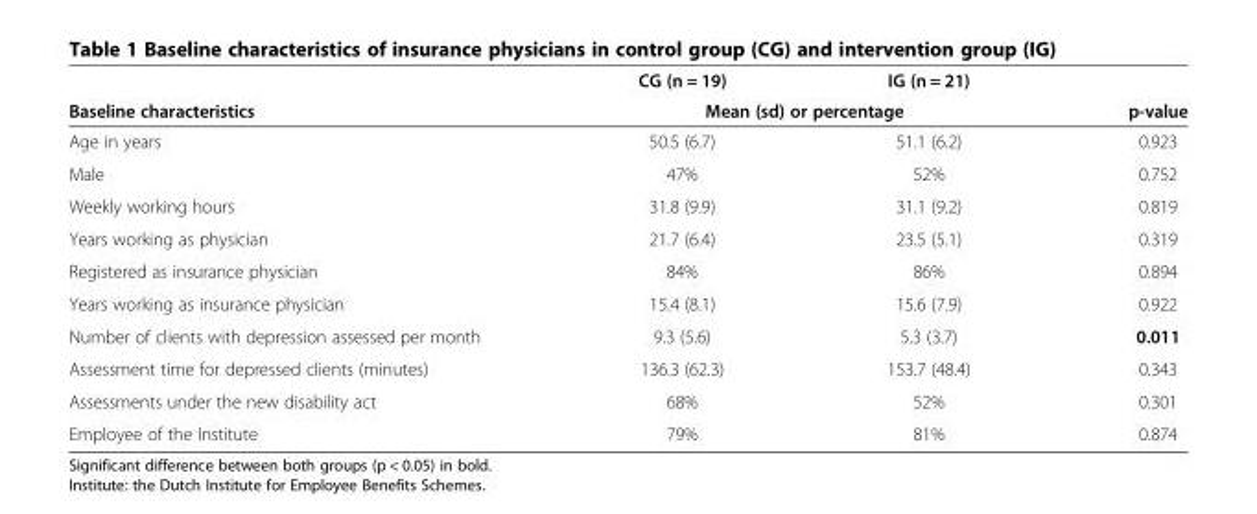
<table><thead><tr><td rowspan="2">Baseline characteristics</td><td>CG (n = 19)</td><td>IG (n = 21)</td><td rowspan="2">p-value</td></tr><tr><td colspan="2">Mean (sd) or percentage</td></tr></thead><tbody><tr><td>Age in years</td><td>50.5 (6.7)</td><td>51.1 (6.2)</td><td>0.923</td></tr><tr><td>Male</td><td>47%</td><td>52%</td><td>0.752</td></tr><tr><td>Weekly working hours</td><td>31.8 (9.9)</td><td>31.1 (9.2)</td><td>0.819</td></tr><tr><td>Years working as physician</td><td>21.7 (6.4)</td><td>23.5 (5.1)</td><td>0.319</td></tr><tr><td>Registered as insurance physician</td><td>84%</td><td>86%</td><td>0.894</td></tr><tr><td>Years working as insurance physician</td><td>15.4 (8.1)</td><td>15.6 (7.9)</td><td>0.922</td></tr><tr><td>Number of clients with depression assessed per month</td><td>9.3 (5.6)</td><td>5.3 (3.7)</td><td>0.011</td></tr><tr><td>Assessment time for depressed clients (minutes)</td><td>136.3 (62.3)</td><td>153.7 (48.4)</td><td>0.343</td></tr><tr><td>Assessments under the new disability act</td><td>68%</td><td>52%</td><td>0.301</td></tr><tr><td>Employee of the Institute</td><td>79%</td><td>81%</td><td>0.874</td></tr></tbody></table>